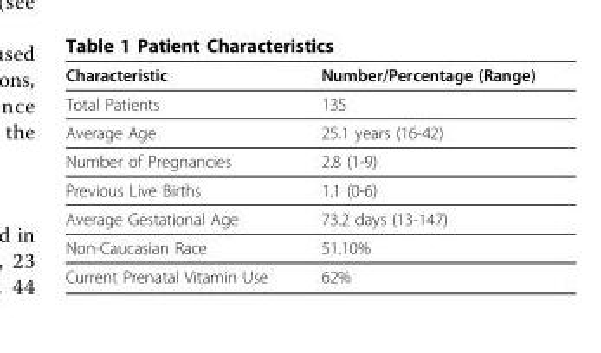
<table><thead><tr><td>Characteristic</td><td>Number/Percentage (Range)</td></tr></thead><tbody><tr><td>Total Patients</td><td>135</td></tr><tr><td>Average Age</td><td>25.1 years (16-42)</td></tr><tr><td>Number of Pregnancies</td><td>2.8 (1-9)</td></tr><tr><td>Previous Live Births</td><td>1.1 (0-6)</td></tr><tr><td>Average Gestational Age</td><td>73.2 days (13-147)</td></tr><tr><td>Non-Caucasian Race</td><td>51.10%</td></tr><tr><td>Current Prenatal Vitamin Use</td><td>62%</td></tr></tbody></table>